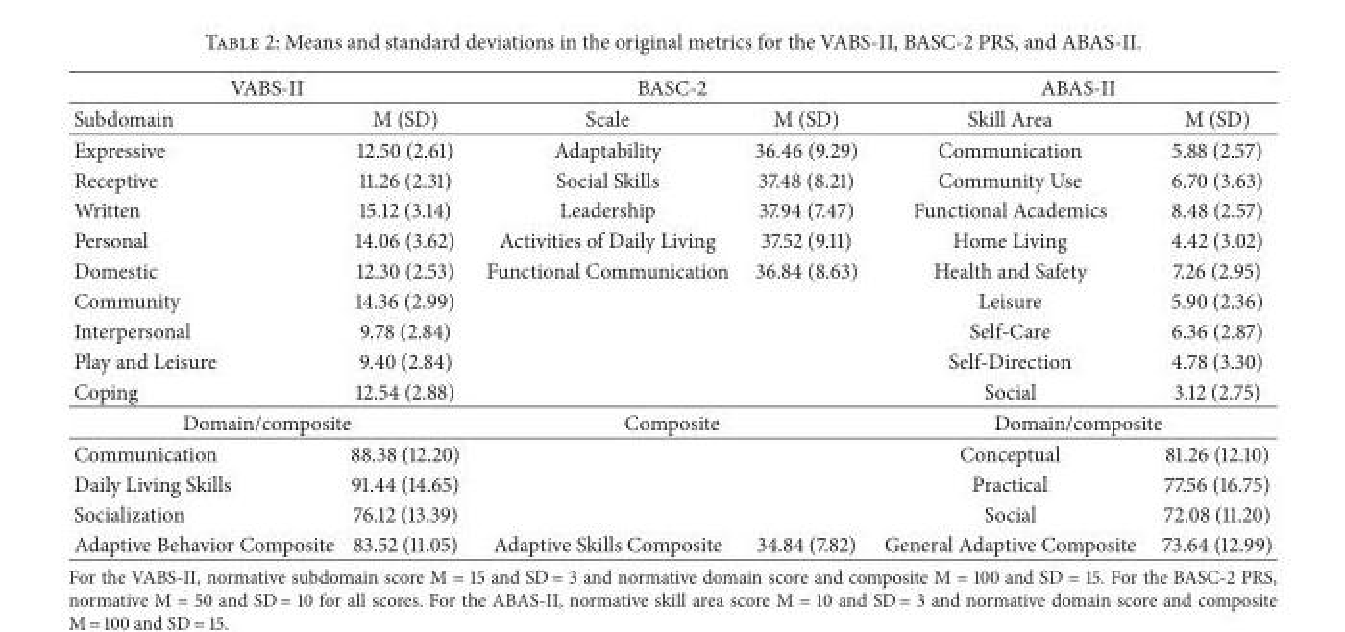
<table><thead><tr><td colspan="2">VABS-II</td><td colspan="2">BASC-2</td><td colspan="2">ABAS-II</td></tr><tr><td>Subdomain</td><td>M (SD)</td><td>Scale</td><td>M (SD)</td><td>Skill Area</td><td>M (SD)</td></tr></thead><tbody><tr><td>Expressive</td><td>12.50 (2.61)</td><td>Adaptability</td><td>36.46 (9.29)</td><td>Communication</td><td>5.88 (2.57)</td></tr><tr><td>Receptive</td><td>11.26 (2.31)</td><td>Social Skills</td><td>37.48 (8.21)</td><td>Community Use</td><td>6.70 (3.63)</td></tr><tr><td>Written</td><td>15.12 (3.14)</td><td>Leadership</td><td>37.94 (7.47)</td><td>Functional Academics</td><td>8.48 (2.57)</td></tr><tr><td>Personal</td><td>14.06 (3.62)</td><td>Activities of Daily Living</td><td>37.52 (9.11)</td><td>Home Living</td><td>4.42 (3.02)</td></tr><tr><td>Domestic</td><td>12.30 (2.53)</td><td>Functional Communication</td><td>36.84 (8.63)</td><td>Health and Safety</td><td>7.26 (2.95)</td></tr><tr><td>Community</td><td>14.36 (2.99)</td><td></td><td></td><td>Leisure</td><td>5.90 (2.36)</td></tr><tr><td>Interpersonal</td><td>9.78 (2.84)</td><td></td><td></td><td>Self-Care</td><td>6.36 (2.87)</td></tr><tr><td>Play and Leisure</td><td>9.40 (2.84)</td><td></td><td></td><td>Self-Direction</td><td>4.78 (3.30)</td></tr><tr><td>Coping</td><td>12.54 (2.88)</td><td></td><td></td><td>Social</td><td>3.12 (2.75)</td></tr><tr><td colspan="2">Domain/composite</td><td colspan="2">Composite</td><td colspan="2">Domain/composite</td></tr><tr><td>Communication</td><td>88.38 (12.20)</td><td></td><td></td><td>Conceptual</td><td>81.26 (12.10)</td></tr><tr><td>Daily Living Skills</td><td>91.44 (14.65)</td><td></td><td></td><td>Practical</td><td>77.56 (16.75)</td></tr><tr><td>Socialization</td><td>76.12 (13.39)</td><td></td><td></td><td>Social</td><td>72.08 (11.20)</td></tr><tr><td>Adaptive Behavior Composite</td><td>83.52 (11.05)</td><td>Adaptive Skills Composite</td><td>34.84 (7.82)</td><td>General Adaptive Composite</td><td>73.64 (12.99)</td></tr></tbody></table>